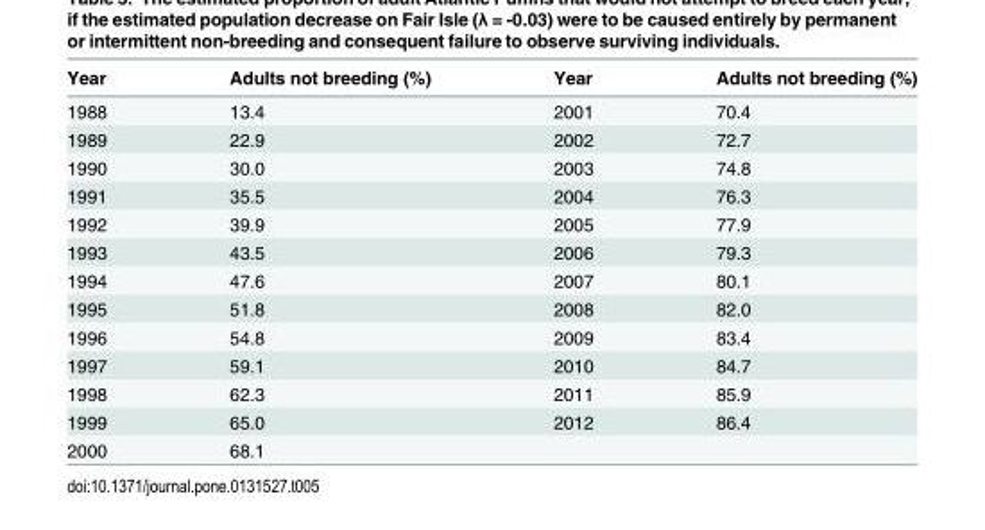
<table><thead><tr><td>Year</td><td>Adults not breeding (%)</td><td>Year</td><td>Adults not breeding (%)</td></tr></thead><tbody><tr><td>1988</td><td>13.4</td><td>2001</td><td>70.4</td></tr><tr><td>1989</td><td>22.9</td><td>2002</td><td>72.7</td></tr><tr><td>1990</td><td>30.0</td><td>2003</td><td>74.8</td></tr><tr><td>1991</td><td>35.5</td><td>2004</td><td>76.3</td></tr><tr><td>1992</td><td>39.9</td><td>2005</td><td>77.9</td></tr><tr><td>1993</td><td>43.5</td><td>2006</td><td>79.3</td></tr><tr><td>1994</td><td>47.6</td><td>2007</td><td>80.1</td></tr><tr><td>1995</td><td>51.8</td><td>2008</td><td>82.0</td></tr><tr><td>1996</td><td>54.8</td><td>2009</td><td>83.4</td></tr><tr><td>1997</td><td>59.1</td><td>2010</td><td>84.7</td></tr><tr><td>1998</td><td>62.3</td><td>2011</td><td>85.9</td></tr><tr><td>1999</td><td>65.0</td><td>2012</td><td>86.4</td></tr><tr><td>2000</td><td>68.1</td><td></td><td></td></tr></tbody></table>